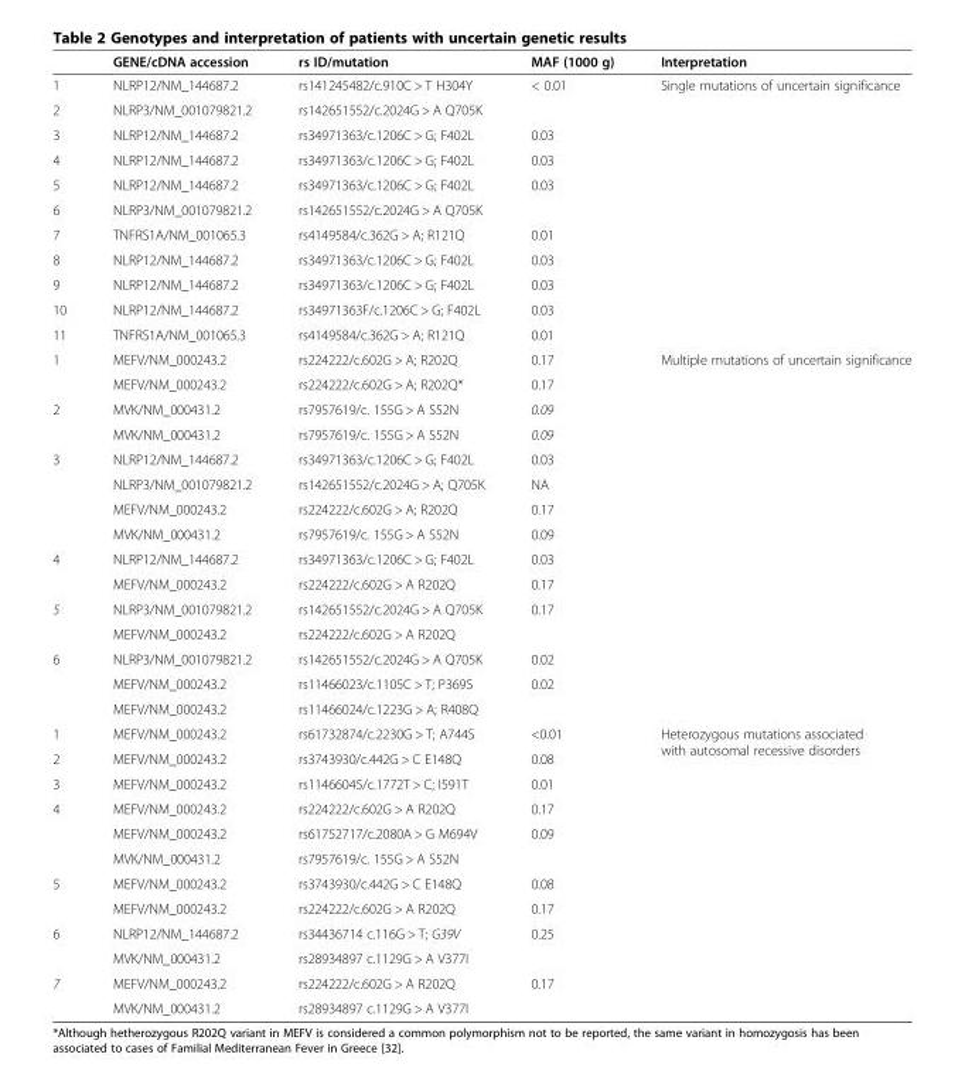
<table><thead><tr><td></td><td>GENE/cDNA accession</td><td>rs ID/mutation</td><td>MAF (1000 g)</td><td>Interpretation</td></tr></thead><tbody><tr><td>1</td><td>NLRP12/NM_144687.2</td><td>rs141245482/c.910C &gt; T H304Y</td><td>&lt; 0.01</td><td rowspan="11">Single mutations of uncertain significance</td></tr><tr><td>2</td><td>NLRP3/NM_001079821.2</td><td>rs142651552/c.2024G &gt; A Q705K</td><td></td></tr><tr><td>3</td><td>NLRP12/NM_144687.2</td><td>rs34971363/c.1206C &gt; G; F402L</td><td>0.03</td></tr><tr><td>4</td><td>NLRP12/NM_144687.2</td><td>rs34971363/c.1206C &gt; G; F402L</td><td>0.03</td></tr><tr><td>5</td><td>NLRP12/NM_144687.2</td><td>rs34971363/c.1206C &gt; G; F402L</td><td>0.03</td></tr><tr><td>6</td><td>NLRP3/NM_001079821.2</td><td>rs142651552/c.2024G &gt; A Q705K</td><td></td></tr><tr><td>7</td><td>TNFRS1A/NM_001065.3</td><td>rs4149584/c.362G &gt; A; R121Q</td><td>0.01</td></tr><tr><td>8</td><td>NLRP12/NM_144687.2</td><td>rs34971363/c.1206C &gt; G; F402L</td><td>0.03</td></tr><tr><td>9</td><td>NLRP12/NM_144687.2</td><td>rs34971363/c.1206C &gt; G; F402L</td><td>0.03</td></tr><tr><td>10</td><td>NLRP12/NM_144687.2</td><td>rs34971363F/c.1206C &gt; G; F402L</td><td>0.03</td></tr><tr><td>11</td><td>TNFRS1A/NM_001065.3</td><td>rs4149584/c.362G &gt; A; R121Q</td><td>0.01</td></tr><tr><td rowspan="2">1</td><td>MEFV/NM_000243.2</td><td>rs224222/c.602G &gt; A; R202Q</td><td>0.17</td><td rowspan="10">Multiple mutations of uncertain significance</td></tr><tr><td>MEFV/NM_000243.2</td><td>rs224222/c.602G &gt; A; R202Q*</td><td>0.17</td></tr><tr><td rowspan="2">2</td><td>MVK/NM_000431.2</td><td>rs7957619/c. 155G &gt; A S52N</td><td>0.09</td></tr><tr><td>MVK/NM_000431.2</td><td>rs7957619/c. 155G &gt; A S52N</td><td>0.09</td></tr><tr><td rowspan="4">3</td><td>NLRP12/NM_144687.2</td><td>rs34971363/c.1206C &gt; G; F402L</td><td>0.03</td></tr><tr><td>NLRP3/NM_001079821.2</td><td>rs142651552/c.2024G &gt; A; Q705K</td><td>NA</td></tr><tr><td>MEFV/NM_000243.2</td><td>rs224222/c.602G &gt; A; R202Q</td><td>0.17</td></tr><tr><td>MVK/NM_000431.2</td><td>rs7957619/c. 155G &gt; A S52N</td><td>0.09</td></tr><tr><td rowspan="2">4</td><td>NLRP12/NM_144687.2</td><td>rs34971363/c.1206C &gt; G; F402L</td><td>0.03</td></tr><tr><td>MEFV/NM_000243.2</td><td>rs224222/c.602G &gt; A R202Q</td><td>0.17</td></tr><tr><td rowspan="2">5</td><td>NLRP3/NM_001079821.2</td><td>rs142651552/c.2024G &gt; A Q705K</td><td rowspan="2">0.17</td><td rowspan="5"></td></tr><tr><td>MEFV/NM_000243.2</td><td>rs224222/c.602G &gt; A R202Q</td></tr><tr><td rowspan="3">6</td><td>NLRP3/NM_001079821.2</td><td>rs142651552/c.2024G &gt; A Q705K</td><td>0.02</td></tr><tr><td>MEFV/NM_000243.2</td><td>rs11466023/c.1105C &gt; T; P369S</td><td rowspan="2">0.02</td></tr><tr><td>MEFV/NM_000243.2</td><td>rs11466024/c.1223G &gt; A; R408Q</td></tr><tr><td>1</td><td>MEFV/NM_000243.2</td><td>rs61732874/c.2230G &gt; T; A744S</td><td>&lt;0.01</td><td rowspan="12">Heterozygous mutations associated with autosomal recessive disorders</td></tr><tr><td>2</td><td>MEFV/NM_000243.2</td><td>rs3743930/c.442G &gt; C E148Q</td><td>0.08</td></tr><tr><td>3</td><td>MEFV/NM_000243.2</td><td>rs11466045/c.1772T &gt; C; I591T</td><td>0.01</td></tr><tr><td rowspan="3">4</td><td>MEFV/NM_000243.2</td><td>rs224222/c.602G &gt; A R202Q</td><td>0.17</td></tr><tr><td>MEFV/NM_000243.2</td><td>rs61752717/c.2080A &gt; G M694V</td><td rowspan="2">0.09</td></tr><tr><td>MVK/NM_000431.2</td><td>rs7957619/c. 155G &gt; A S52N</td></tr><tr><td rowspan="2">5</td><td>MEFV/NM_000243.2</td><td>rs3743930/c.442G &gt; C E148Q</td><td>0.08</td></tr><tr><td>MEFV/NM_000243.2</td><td>rs224222/c.602G &gt; A R202Q</td><td>0.17</td></tr><tr><td rowspan="2">6</td><td>NLRP12/NM_144687.2</td><td>rs34436714 c.116G &gt; T; G39V</td><td rowspan="2">0.25</td></tr><tr><td>MVK/NM_000431.2</td><td>rs28934897 c.1129G &gt; A V377I</td></tr><tr><td rowspan="2">7</td><td>MEFV/NM_000243.2</td><td>rs224222/c.602G &gt; A R202Q</td><td rowspan="2">0.17</td></tr><tr><td>MVK/NM_000431.2</td><td>rs28934897 c.1129G &gt; A V377I</td></tr></tbody></table>